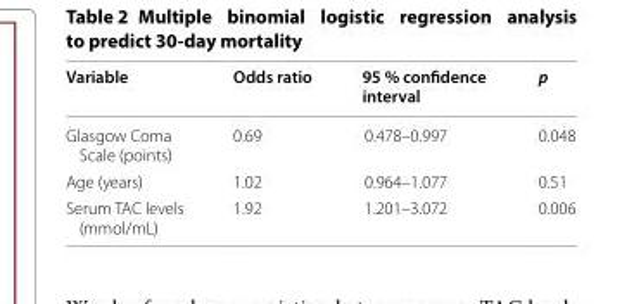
<table><thead><tr><td>Variable</td><td>Odds ratio</td><td>95 % confidence interval</td><td>p</td></tr></thead><tbody><tr><td>Glasgow Coma Scale (points)</td><td>0.69</td><td>0.478–0.997</td><td>0.048</td></tr><tr><td>Age (years)</td><td>1.02</td><td>0.964–1.077</td><td>0.51</td></tr><tr><td>Serum TAC levels (mmol/mL)</td><td>1.92</td><td>1.201–3.072</td><td>0.006</td></tr></tbody></table>